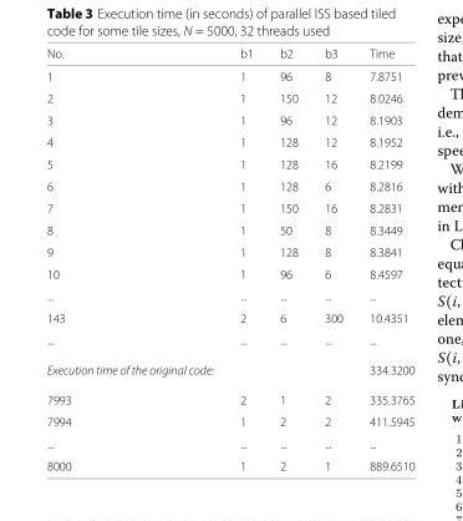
<table><thead><tr><td>No.</td><td>b1</td><td>b2</td><td>b3</td><td>Time</td></tr></thead><tbody><tr><td>1</td><td>1</td><td>96</td><td>8</td><td>7.8751</td></tr><tr><td>2</td><td>1</td><td>150</td><td>12</td><td>8.0246</td></tr><tr><td>3</td><td>1</td><td>96</td><td>12</td><td>8.1903</td></tr><tr><td>4</td><td>1</td><td>128</td><td>12</td><td>8.1952</td></tr><tr><td>5</td><td>1</td><td>128</td><td>16</td><td>8.2199</td></tr><tr><td>6</td><td>1</td><td>128</td><td>6</td><td>8.2816</td></tr><tr><td>7</td><td>1</td><td>150</td><td>16</td><td>8.2831</td></tr><tr><td>8</td><td>1</td><td>50</td><td>8</td><td>8.3449</td></tr><tr><td>9</td><td>1</td><td>128</td><td>8</td><td>8.3841</td></tr><tr><td>10</td><td>1</td><td>96</td><td>6</td><td>8.4597</td></tr><tr><td>...</td><td>...</td><td>...</td><td>...</td><td>...</td></tr><tr><td>143</td><td>2</td><td>6</td><td>300</td><td>10.4351</td></tr><tr><td>...</td><td>...</td><td>...</td><td>...</td><td>...</td></tr><tr><td>Execution time of the original code:</td><td></td><td></td><td></td><td>334.3200</td></tr><tr><td>7993</td><td>2</td><td>1</td><td>2</td><td>335.3765</td></tr><tr><td>7994</td><td>1</td><td>2</td><td>2</td><td>411.5945</td></tr><tr><td>...</td><td>...</td><td>...</td><td>...</td><td>...</td></tr><tr><td>8000</td><td>1</td><td>2</td><td>1</td><td>889.6510</td></tr></tbody></table>